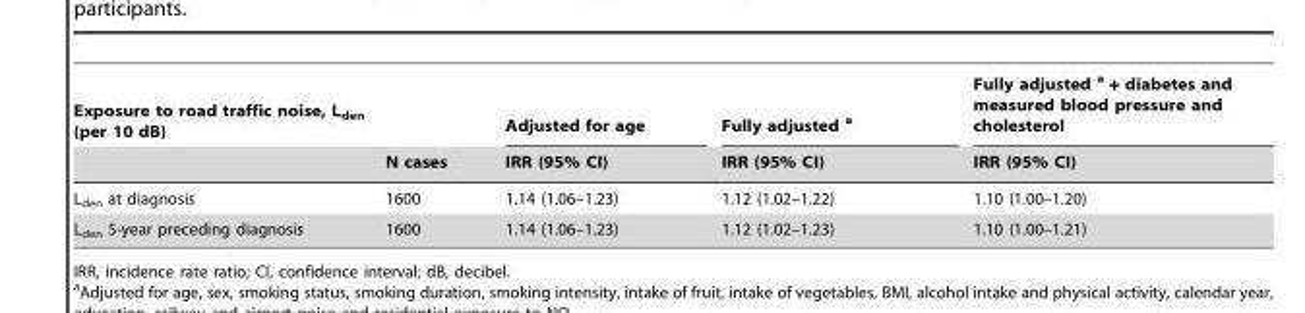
<table><thead><tr><td rowspan="2">Exposure to road traffic noise, L<sub>den</sub> (per 10 dB)</td><td rowspan="2">N cases</td><td rowspan="2">Adjusted for age IRR (95% CI)</td><td rowspan="2">Fully adjusted a IRR (95% CI)</td><td rowspan="2">Fully adjusted a + diabetes and measured blood pressure and cholesterol IRR (95% CI)</td></tr><tr></tr></thead><tbody><tr><td>L<sub>den</sub> at diagnosis</td><td>1600</td><td>1.14 (1.06–1.23)</td><td>1.12 (1.02–1.22)</td><td>1.10 (1.00–1.20)</td></tr><tr><td>L<sub>den</sub> 5-year preceding diagnosis</td><td>1600</td><td>1.14 (1.06–1.23)</td><td>1.12 (1.02–1.23)</td><td>1.10 (1.00–1.21)</td></tr></tbody></table>